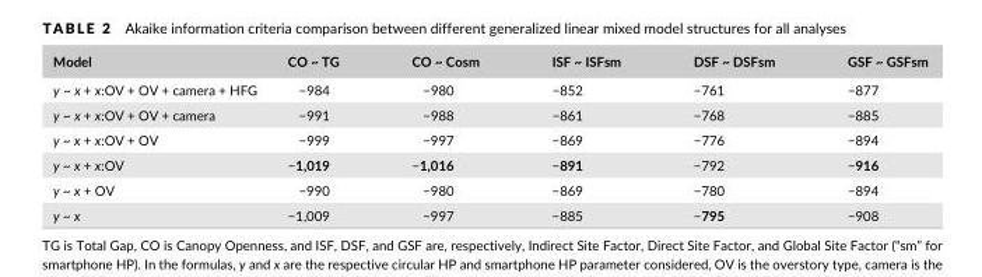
<table><thead><tr><td>Model</td><td>CO ~ TG</td><td>CO ~ Cosm</td><td>ISF ~ ISFsm</td><td>DSF ~ DSFsm</td><td>GSF ~ GSFsm</td></tr></thead><tbody><tr><td>y ~ x + x:OV + OV + camera + HFG</td><td>−984</td><td>−980</td><td>−852</td><td>−761</td><td>−877</td></tr><tr><td>y ~ x + x:OV + OV + camera</td><td>−991</td><td>−988</td><td>−861</td><td>−768</td><td>−885</td></tr><tr><td>y ~ x + x:OV + OV</td><td>−999</td><td>−997</td><td>−869</td><td>−776</td><td>−894</td></tr><tr><td>y ~ x + x:OV</td><td>−1,019</td><td>−1,016</td><td>−891</td><td>−792</td><td>−916</td></tr><tr><td>y ~ x + OV</td><td>−990</td><td>−980</td><td>−869</td><td>−780</td><td>−894</td></tr><tr><td>y ~ x</td><td>−1,009</td><td>−997</td><td>−885</td><td>−795</td><td>−908</td></tr></tbody></table>